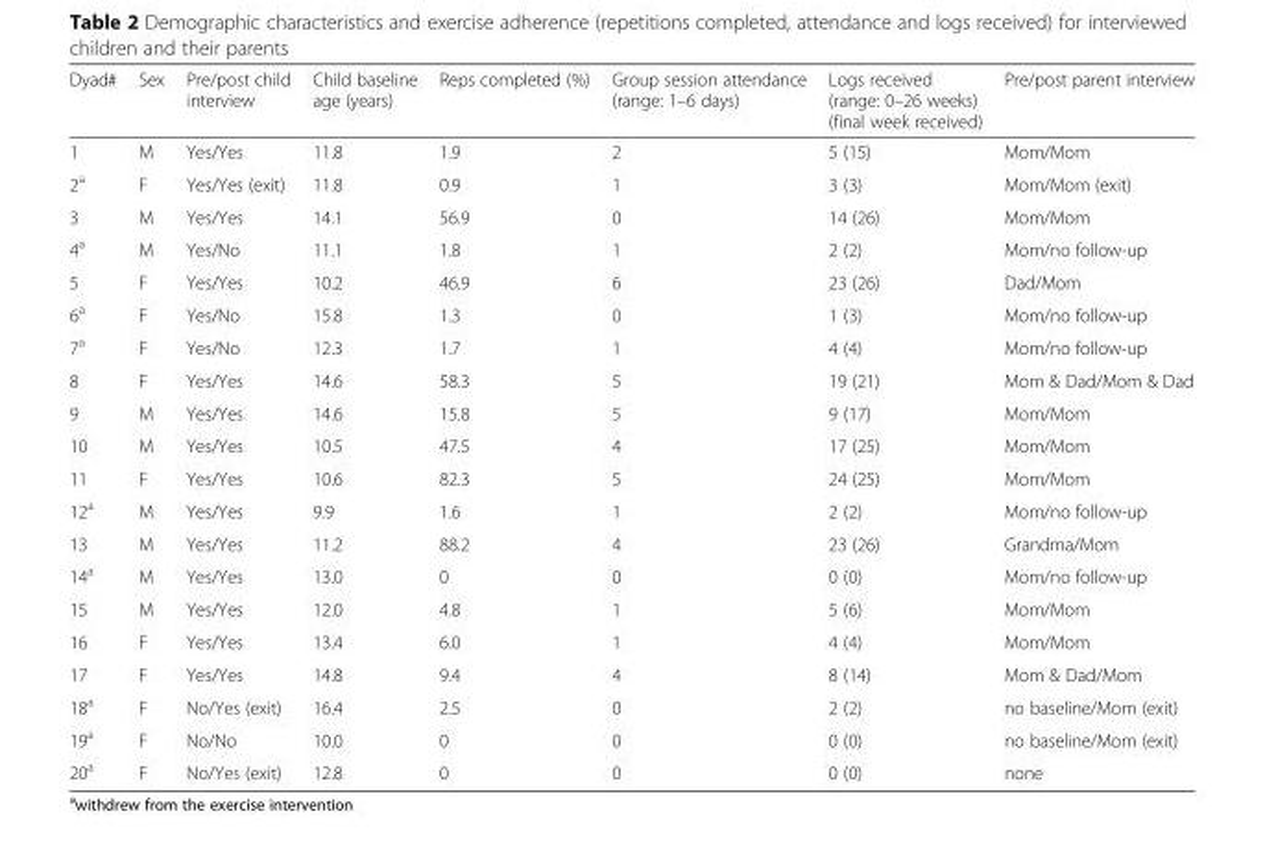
<table><thead><tr><td>Dyad#</td><td>Sex</td><td>Pre/post child interview</td><td>Child baseline age (years)</td><td>Reps completed (%)</td><td>Group session attendance (range: 1–6 days)</td><td>Logs received (range: 0–26 weeks) (final week received)</td><td>Pre/post parent interview</td></tr></thead><tbody><tr><td>1</td><td>M</td><td>Yes/Yes</td><td>11.8</td><td>1.9</td><td>2</td><td>5 (15)</td><td>Mom/Mom</td></tr><tr><td>2<sup>a</sup></td><td>F</td><td>Yes/Yes (exit)</td><td>11.8</td><td>0.9</td><td>1</td><td>3 (3)</td><td>Mom/Mom (exit)</td></tr><tr><td>3</td><td>M</td><td>Yes/Yes</td><td>14.1</td><td>56.9</td><td>0</td><td>14 (26)</td><td>Mom/Mom</td></tr><tr><td>4<sup>a</sup></td><td>M</td><td>Yes/No</td><td>11.1</td><td>1.8</td><td>1</td><td>2 (2)</td><td>Mom/no follow-up</td></tr><tr><td>5</td><td>F</td><td>Yes/Yes</td><td>10.2</td><td>46.9</td><td>6</td><td>23 (26)</td><td>Dad/Mom</td></tr><tr><td>6<sup>a</sup></td><td>F</td><td>Yes/No</td><td>15.8</td><td>1.3</td><td>0</td><td>1 (3)</td><td>Mom/no follow-up</td></tr><tr><td>7<sup>a</sup></td><td>F</td><td>Yes/No</td><td>12.3</td><td>1.7</td><td>1</td><td>4 (4)</td><td>Mom/no follow-up</td></tr><tr><td>8</td><td>F</td><td>Yes/Yes</td><td>14.6</td><td>58.3</td><td>5</td><td>19 (21)</td><td>Mom &amp; Dad/Mom &amp; Dad</td></tr><tr><td>9</td><td>M</td><td>Yes/Yes</td><td>14.6</td><td>15.8</td><td>5</td><td>9 (17)</td><td>Mom/Mom</td></tr><tr><td>10</td><td>M</td><td>Yes/Yes</td><td>10.5</td><td>47.5</td><td>4</td><td>17 (25)</td><td>Mom/Mom</td></tr><tr><td>11</td><td>F</td><td>Yes/Yes</td><td>10.6</td><td>82.3</td><td>5</td><td>24 (25)</td><td>Mom/Mom</td></tr><tr><td>12<sup>a</sup></td><td>M</td><td>Yes/Yes</td><td>9.9</td><td>1.6</td><td>1</td><td>2 (2)</td><td>Mom/no follow-up</td></tr><tr><td>13</td><td>M</td><td>Yes/Yes</td><td>11.2</td><td>88.2</td><td>4</td><td>23 (26)</td><td>Grandma/Mom</td></tr><tr><td>14<sup>a</sup></td><td>M</td><td>Yes/Yes</td><td>13.0</td><td>0</td><td>0</td><td>0 (0)</td><td>Mom/no follow-up</td></tr><tr><td>15</td><td>M</td><td>Yes/Yes</td><td>12.0</td><td>4.8</td><td>1</td><td>5 (6)</td><td>Mom/Mom</td></tr><tr><td>16</td><td>F</td><td>Yes/Yes</td><td>13.4</td><td>6.0</td><td>1</td><td>4 (4)</td><td>Mom/Mom</td></tr><tr><td>17</td><td>F</td><td>Yes/Yes</td><td>14.8</td><td>9.4</td><td>4</td><td>8 (14)</td><td>Mom &amp; Dad/Mom</td></tr><tr><td>18<sup>a</sup></td><td>F</td><td>No/Yes (exit)</td><td>16.4</td><td>2.5</td><td>0</td><td>2 (2)</td><td>no baseline/Mom (exit)</td></tr><tr><td>19<sup>a</sup></td><td>F</td><td>No/No</td><td>10.0</td><td>0</td><td>0</td><td>0 (0)</td><td>no baseline/Mom (exit)</td></tr><tr><td>20<sup>a</sup></td><td>F</td><td>No/Yes (exit)</td><td>12.8</td><td>0</td><td>0</td><td>0 (0)</td><td>none</td></tr></tbody></table>